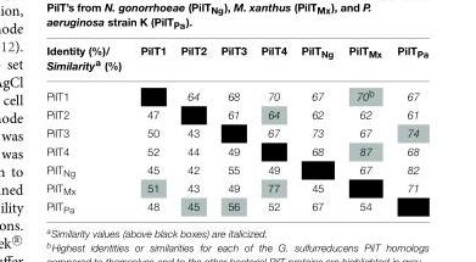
<table><thead><tr><td>Identity (%)/ Similarity<sup>a</sup> (%)</td><td>PilT1</td><td>PilT2</td><td>PilT3</td><td>PilT4</td><td>PilT<sub>Ng</sub></td><td>PilT<sub>Mx</sub></td><td>PilT<sub>Pa</sub></td></tr></thead><tbody><tr><td>PilT1</td><td></td><td>64</td><td>68</td><td>70</td><td>67</td><td>70<sup>b</sup></td><td>67</td></tr><tr><td>PilT2</td><td>47</td><td></td><td>61</td><td>64</td><td>62</td><td>62</td><td>61</td></tr><tr><td>PilT3</td><td>50</td><td>43</td><td></td><td>67</td><td>73</td><td>67</td><td>74</td></tr><tr><td>PilT4</td><td>52</td><td>44</td><td>49</td><td></td><td>68</td><td>87</td><td>68</td></tr><tr><td>PilT<sub>Ng</sub></td><td>45</td><td>42</td><td>55</td><td>49</td><td></td><td>67</td><td>82</td></tr><tr><td>PilT<sub>Mx</sub></td><td>51</td><td>43</td><td>49</td><td>77</td><td>45</td><td></td><td>71</td></tr><tr><td>PilT<sub>Pa</sub></td><td>48</td><td>45</td><td>56</td><td>52</td><td>67</td><td>54</td><td></td></tr></tbody></table>